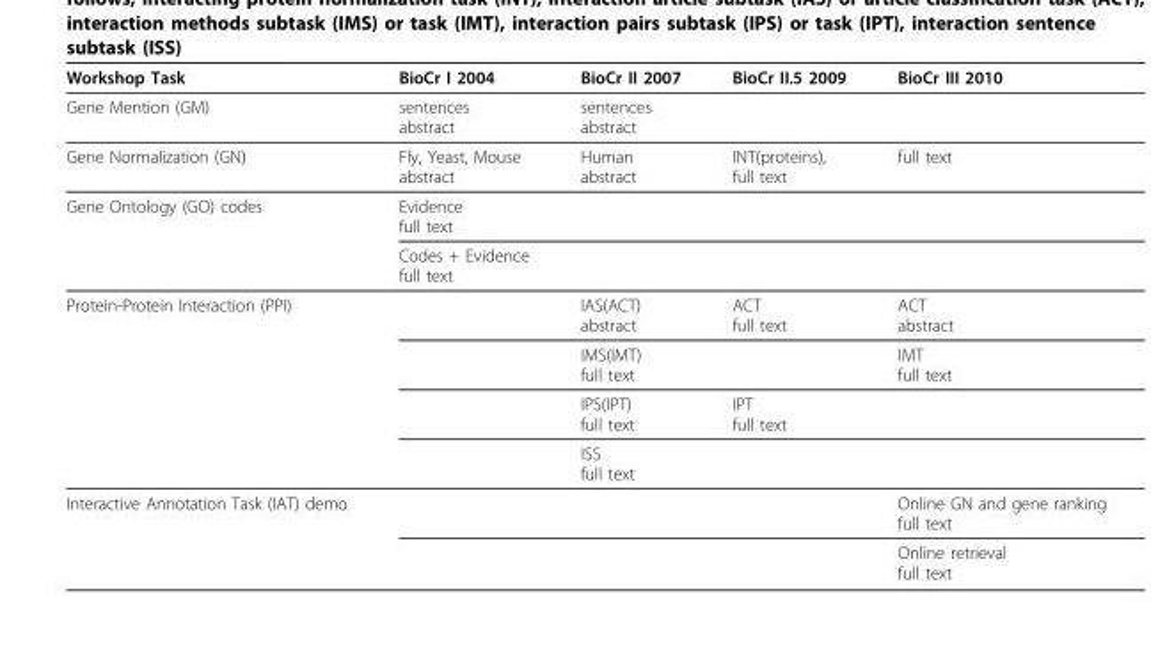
<table><thead><tr><td>Workshop Task</td><td>BioCr I 2004</td><td>BioCr II 2007</td><td>BioCr II.5 2009</td><td>BioCr III 2010</td></tr></thead><tbody><tr><td>Gene Mention (GM)</td><td>sentences abstract</td><td>sentences abstract</td><td></td><td></td></tr><tr><td>Gene Normalization (GN)</td><td>Fly, Yeast, Mouse abstract</td><td>Human abstract</td><td>INT(proteins), full text</td><td>full text</td></tr><tr><td rowspan="2">Gene Ontology (GO) codes</td><td>Evidence full text</td><td></td><td></td><td></td></tr><tr><td>Codes + Evidence full text</td><td></td><td></td><td></td></tr><tr><td rowspan="4">Protein-Protein Interaction (PPI)</td><td></td><td>IAS(ACT) abstract</td><td>ACT full text</td><td>ACT abstract</td></tr><tr><td></td><td>IMS(IMT) full text</td><td></td><td>IMT full text</td></tr><tr><td></td><td>IPS(IPT) full text</td><td>IPT full text</td><td></td></tr><tr><td></td><td>ISS full text</td><td></td><td></td></tr><tr><td rowspan="2">Interactive Annotation Task (IAT) demo</td><td></td><td></td><td></td><td>Online GN and gene ranking full text</td></tr><tr><td></td><td></td><td></td><td>Online retrieval full text</td></tr></tbody></table>